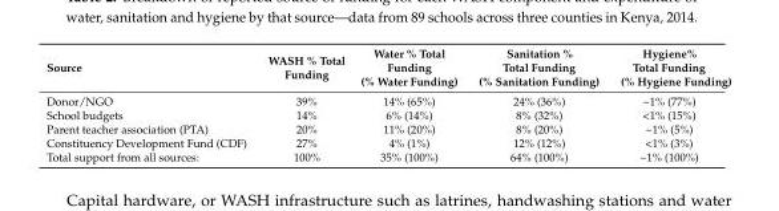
<table><thead><tr><td>Source</td><td>WASH % Total Funding</td><td>Water % Total Funding (% Water Funding)</td><td>Sanitation % Total Funding (% Sanitation Funding)</td><td>Hygiene% Total Funding (% Hygiene Funding)</td></tr></thead><tbody><tr><td>Donor/NGO</td><td>39%</td><td>14% (65%)</td><td>24% (36%)</td><td>~1% (77%)</td></tr><tr><td>School budgets</td><td>14%</td><td>6% (14%)</td><td>8% (32%)</td><td>&lt;1% (15%)</td></tr><tr><td>Parent teacher association (PTA)</td><td>20%</td><td>11% (20%)</td><td>8% (20%)</td><td>~1% (5%)</td></tr><tr><td>Constituency Development Fund (CDF)</td><td>27%</td><td>4% (1%)</td><td>12% (12%)</td><td>&lt;1% (3%)</td></tr><tr><td>Total support from all sources:</td><td>100%</td><td>35% (100%)</td><td>64% (100%)</td><td>~1% (100%)</td></tr></tbody></table>